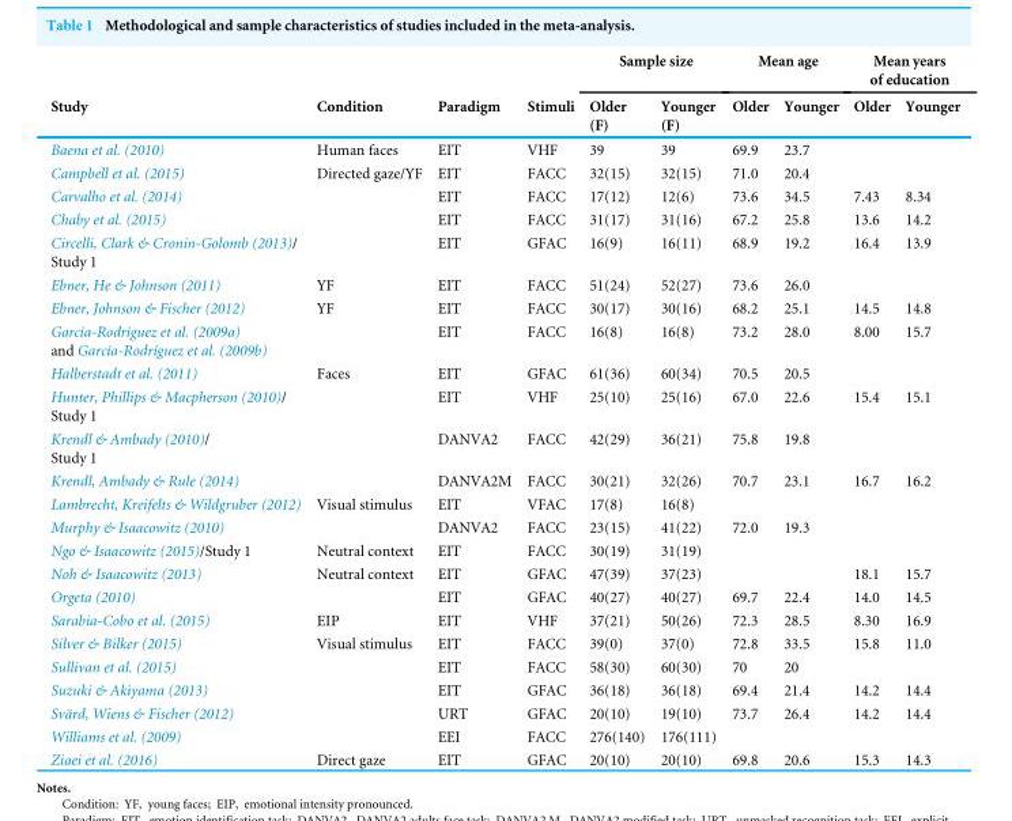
<table><thead><tr><td rowspan="2">Study</td><td rowspan="2">Condition</td><td rowspan="2">Paradigm</td><td rowspan="2">Stimuli</td><td colspan="2">Sample size</td><td colspan="2">Mean age</td><td colspan="2">Mean years of education</td></tr><tr><td>Older (F)</td><td>Younger (F)</td><td>Older</td><td>Younger</td><td>Older</td><td>Younger</td></tr></thead><tbody><tr><td>Baena et al. (2010)</td><td>Human faces</td><td>EIT</td><td>VHF</td><td>39</td><td>39</td><td>69.9</td><td>23.7</td><td></td><td></td></tr><tr><td>Campbell et al. (2015)</td><td>Directed gaze/YF</td><td>EIT</td><td>FACC</td><td>32(15)</td><td>32(15)</td><td>71.0</td><td>20.4</td><td></td><td></td></tr><tr><td>Carvalho et al. (2014)</td><td></td><td>EIT</td><td>FACC</td><td>17(12)</td><td>12(6)</td><td>73.6</td><td>34.5</td><td>7.43</td><td>8.34</td></tr><tr><td>Chaby et al. (2015)</td><td></td><td>EIT</td><td>FACC</td><td>31(17)</td><td>31(16)</td><td>67.2</td><td>25.8</td><td>13.6</td><td>14.2</td></tr><tr><td>Circelli, Clark &amp; Cronin-Golomb (2013)/ Study 1</td><td></td><td>EIT</td><td>GFAC</td><td>16(9)</td><td>16(11)</td><td>68.9</td><td>19.2</td><td>16.4</td><td>13.9</td></tr><tr><td>Ebner, He &amp; Johnson (2011)</td><td>YF</td><td>EIT</td><td>FACC</td><td>51(24)</td><td>52(27)</td><td>73.6</td><td>26.0</td><td></td><td></td></tr><tr><td>Ebner, Johnson &amp; Fischer (2012)</td><td>YF</td><td>EIT</td><td>FACC</td><td>30(17)</td><td>30(16)</td><td>68.2</td><td>25.1</td><td>14.5</td><td>14.8</td></tr><tr><td>García-Rodríguez et al. (2009a) and García-Rodríguez et al. (2009b)</td><td></td><td>EIT</td><td>FACC</td><td>16(8)</td><td>16(8)</td><td>73.2</td><td>28.0</td><td>8.00</td><td>15.7</td></tr><tr><td>Halberstadt et al. (2011)</td><td>Faces</td><td>EIT</td><td>GFAC</td><td>61(36)</td><td>60(34)</td><td>70.5</td><td>20.5</td><td></td><td></td></tr><tr><td>Hunter, Phillips &amp; Macpherson (2010)/ Study 1</td><td></td><td>EIT</td><td>VHF</td><td>25(10)</td><td>25(16)</td><td>67.0</td><td>22.6</td><td>15.4</td><td>15.1</td></tr><tr><td>Krendl &amp; Ambady (2010)/ Study 1</td><td></td><td>DANVA2</td><td>FACC</td><td>42(29)</td><td>36(21)</td><td>75.8</td><td>19.8</td><td></td><td></td></tr><tr><td>Krendl, Ambady &amp; Rule (2014)</td><td></td><td>DANVA2M</td><td>FACC</td><td>30(21)</td><td>32(26)</td><td>70.7</td><td>23.1</td><td>16.7</td><td>16.2</td></tr><tr><td>Lambrecht, Kreifelts &amp; Wildgruber (2012)</td><td>Visual stimulus</td><td>EIT</td><td>VFAC</td><td>17(8)</td><td>16(8)</td><td></td><td></td><td></td><td></td></tr><tr><td>Murphy &amp; Isaacowitz (2010)</td><td></td><td>DANVA2</td><td>FACC</td><td>23(15)</td><td>41(22)</td><td>72.0</td><td>19.3</td><td></td><td></td></tr><tr><td>Ngo &amp; Isaacowitz (2015)/Study 1</td><td>Neutral context</td><td>EIT</td><td>FACC</td><td>30(19)</td><td>31(19)</td><td></td><td></td><td></td><td></td></tr><tr><td>Noh &amp; Isaacowitz (2013)</td><td>Neutral context</td><td>EIT</td><td>GFAC</td><td>47(39)</td><td>37(23)</td><td></td><td></td><td>18.1</td><td>15.7</td></tr><tr><td>Orgeta (2010)</td><td></td><td>EIT</td><td>GFAC</td><td>40(27)</td><td>40(27)</td><td>69.7</td><td>22.4</td><td>14.0</td><td>14.5</td></tr><tr><td>Sarabia-Cobo et al. (2015)</td><td>EIP</td><td>EIT</td><td>VHF</td><td>37(21)</td><td>50(26)</td><td>72.3</td><td>28.5</td><td>8.30</td><td>16.9</td></tr><tr><td>Silver &amp; Bilker (2015)</td><td>Visual stimulus</td><td>EIT</td><td>FACC</td><td>39(0)</td><td>37(0)</td><td>72.8</td><td>33.5</td><td>15.8</td><td>11.0</td></tr><tr><td>Sullivan et al. (2015)</td><td></td><td>EIT</td><td>FACC</td><td>58(30)</td><td>60(30)</td><td>70</td><td>20</td><td></td><td></td></tr><tr><td>Suzuki &amp; Akiyama (2013)</td><td></td><td>EIT</td><td>GFAC</td><td>36(18)</td><td>36(18)</td><td>69.4</td><td>21.4</td><td>14.2</td><td>14.4</td></tr><tr><td>Svärd, Wiens &amp; Fischer (2012)</td><td></td><td>URT</td><td>GFAC</td><td>20(10)</td><td>19(10)</td><td>73.7</td><td>26.4</td><td>14.2</td><td>14.4</td></tr><tr><td>Williams et al. (2009)</td><td></td><td>EEI</td><td>FACC</td><td>276(140)</td><td>176(111)</td><td></td><td></td><td></td><td></td></tr><tr><td>Ziaei et al. (2016)</td><td>Direct gaze</td><td>EIT</td><td>GFAC</td><td>20(10)</td><td>20(10)</td><td>69.8</td><td>20.6</td><td>15.3</td><td>14.3</td></tr></tbody></table>